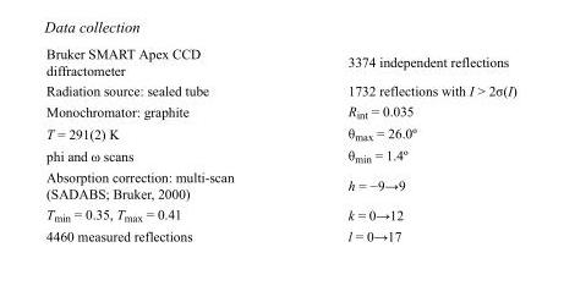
<table><tbody><tr><td>Bruker SMART Apex CCD diffractometer</td><td>3374 independent reflections</td></tr><tr><td>Radiation source: sealed tube</td><td>1732 reflections with I &gt; 2σ(I)</td></tr><tr><td>Monochromator: graphite</td><td>R<sub>int</sub> = 0.035</td></tr><tr><td>T = 291(2) K</td><td>θ<sub>max</sub> = 26.0º</td></tr><tr><td>phi and ω scans</td><td>θ<sub>min</sub> = 1.4º</td></tr><tr><td>Absorption correction: multi-scan (SADABS; Bruker, 2000)</td><td>h = −9→9</td></tr><tr><td>T<sub>min</sub> = 0.35, T<sub>max</sub> = 0.41</td><td>k = 0→12</td></tr><tr><td>4460 measured reflections</td><td>l = 0→17</td></tr></tbody></table>